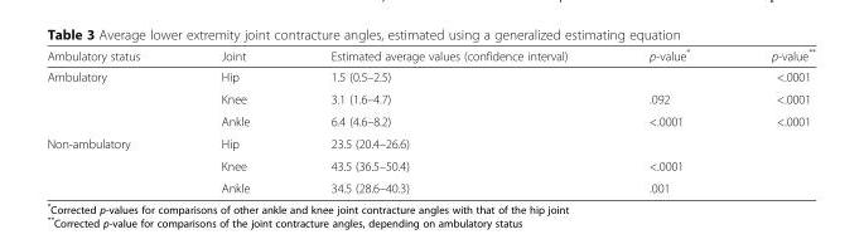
<table><thead><tr><td>Ambulatory status</td><td>Joint</td><td>Estimated average values (confidence interval)</td><td>p-value*</td><td>p-value**</td></tr></thead><tbody><tr><td rowspan="3">Ambulatory</td><td>Hip</td><td>1.5 (0.5–2.5)</td><td></td><td>&lt;.0001</td></tr><tr><td>Knee</td><td>3.1 (1.6–4.7)</td><td>.092</td><td>&lt;.0001</td></tr><tr><td>Ankle</td><td>6.4 (4.6–8.2)</td><td>&lt;.0001</td><td>&lt;.0001</td></tr><tr><td rowspan="3">Non-ambulatory</td><td>Hip</td><td>23.5 (20.4–26.6)</td><td></td><td></td></tr><tr><td>Knee</td><td>43.5 (36.5–50.4)</td><td>&lt;.0001</td><td></td></tr><tr><td>Ankle</td><td>34.5 (28.6–40.3)</td><td>.001</td><td></td></tr></tbody></table>